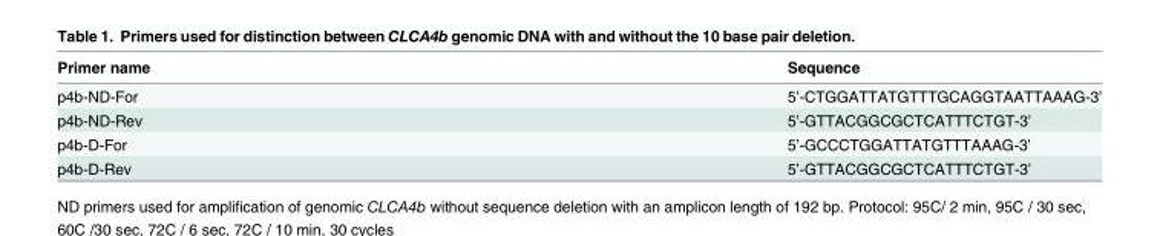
<table><thead><tr><td>Primer name</td><td>Sequence</td></tr></thead><tbody><tr><td>p4b-ND-For</td><td>5’-CTGGATTATGTTTGCAGGTAATTAAAG-3’</td></tr><tr><td>p4b-ND-Rev</td><td>5’-GTTACGGCGCTCATTTCTGT-3’</td></tr><tr><td>p4b-D-For</td><td>5’-GCCCTGGATTATGTTTAAAG-3’</td></tr><tr><td>p4b-D-Rev</td><td>5’-GTTACGGCGCTCATTTCTGT-3’</td></tr></tbody></table>